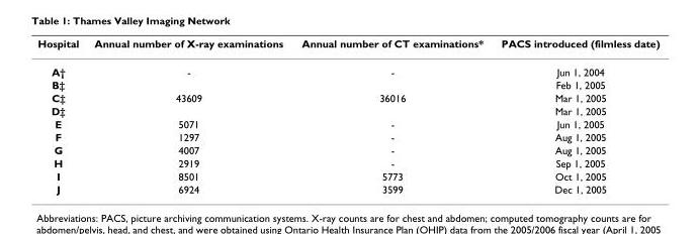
<table><thead><tr><td>Hospital</td><td>Annual number of X-ray examinations</td><td>Annual number of CT examinations*</td><td>PACS introduced (filmless date)</td></tr></thead><tbody><tr><td>A†</td><td>-</td><td>-</td><td>Jun 1, 2004</td></tr><tr><td>B‡</td><td></td><td></td><td>Feb 1, 2005</td></tr><tr><td>C‡</td><td>43609</td><td>36016</td><td>Mar 1, 2005</td></tr><tr><td>D‡</td><td></td><td></td><td>Mar 1, 2005</td></tr><tr><td>E</td><td>5071</td><td>-</td><td>Jun 1, 2005</td></tr><tr><td>F</td><td>1297</td><td>-</td><td>Aug 1, 2005</td></tr><tr><td>G</td><td>4007</td><td>-</td><td>Aug 1, 2005</td></tr><tr><td>H</td><td>2919</td><td>-</td><td>Sep 1, 2005</td></tr><tr><td>I</td><td>8501</td><td>5773</td><td>Oct 1, 2005</td></tr><tr><td>J</td><td>6924</td><td>3599</td><td>Dec 1, 2005</td></tr></tbody></table>